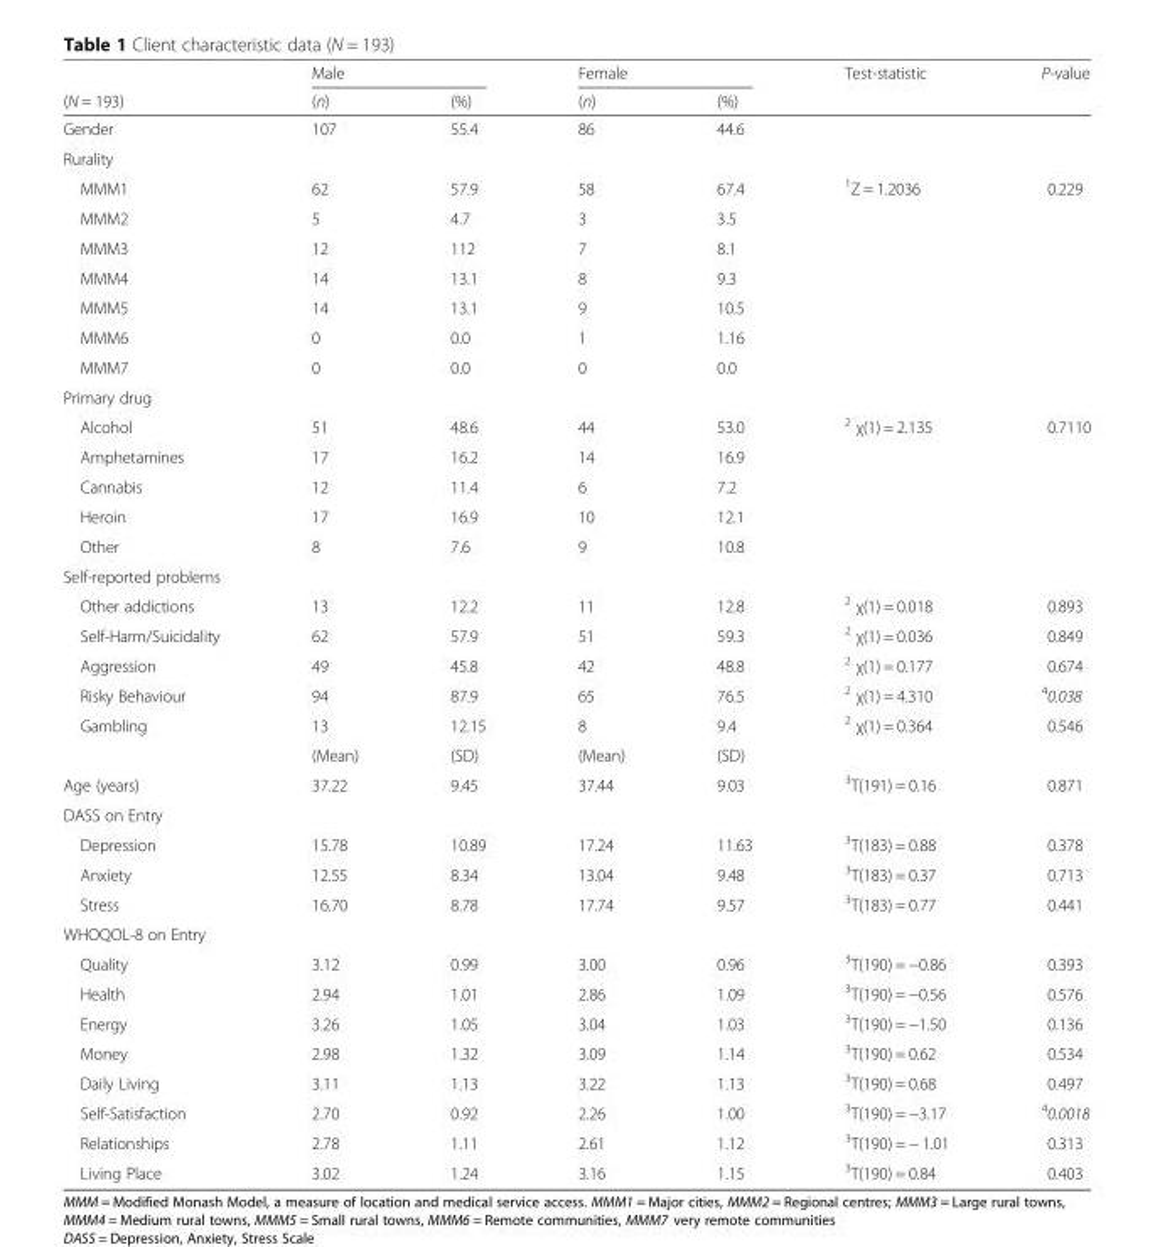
<table><thead><tr><td rowspan="2">(N = 193)</td><td colspan="2">Male</td><td colspan="2">Female</td><td rowspan="2">Test-statistic</td><td rowspan="2">P-value</td></tr><tr><td>(n)</td><td>(%)</td><td>(n)</td><td>(%)</td></tr></thead><tbody><tr><td>Gender</td><td>107</td><td>55.4</td><td>86</td><td>44.6</td><td></td><td></td></tr><tr><td colspan="7">Rurality</td></tr><tr><td>MMM1</td><td>62</td><td>57.9</td><td>58</td><td>67.4</td><td><sup>1</sup>Z = 1.2036</td><td>0.229</td></tr><tr><td>MMM2</td><td>5</td><td>4.7</td><td>3</td><td>3.5</td><td></td><td></td></tr><tr><td>MMM3</td><td>12</td><td>112</td><td>7</td><td>8.1</td><td></td><td></td></tr><tr><td>MMM4</td><td>14</td><td>13.1</td><td>8</td><td>9.3</td><td></td><td></td></tr><tr><td>MMM5</td><td>14</td><td>13.1</td><td>9</td><td>10.5</td><td></td><td></td></tr><tr><td>MMM6</td><td>0</td><td>0.0</td><td>1</td><td>1.16</td><td></td><td></td></tr><tr><td>MMM7</td><td>0</td><td>0.0</td><td>0</td><td>0.0</td><td></td><td></td></tr><tr><td colspan="7">Primary drug</td></tr><tr><td>Alcohol</td><td>51</td><td>48.6</td><td>44</td><td>53.0</td><td><sup>2</sup> χ(1) = 2.135</td><td>0.7110</td></tr><tr><td>Amphetamines</td><td>17</td><td>16.2</td><td>14</td><td>16.9</td><td></td><td></td></tr><tr><td>Cannabis</td><td>12</td><td>11.4</td><td>6</td><td>7.2</td><td></td><td></td></tr><tr><td>Heroin</td><td>17</td><td>16.9</td><td>10</td><td>12.1</td><td></td><td></td></tr><tr><td>Other</td><td>8</td><td>7.6</td><td>9</td><td>10.8</td><td></td><td></td></tr><tr><td colspan="7">Self-reported problems</td></tr><tr><td>Other addictions</td><td>13</td><td>12.2</td><td>11</td><td>12.8</td><td><sup>2</sup> χ(1) = 0.018</td><td>0.893</td></tr><tr><td>Self-Harm/Suicidality</td><td>62</td><td>57.9</td><td>51</td><td>59.3</td><td><sup>2</sup> χ(1) = 0.036</td><td>0.849</td></tr><tr><td>Aggression</td><td>49</td><td>45.8</td><td>42</td><td>48.8</td><td><sup>2</sup> χ(1) = 0.177</td><td>0.674</td></tr><tr><td>Risky Behaviour</td><td>94</td><td>87.9</td><td>65</td><td>76.5</td><td><sup>2</sup> χ(1) = 4.310</td><td><sup>4</sup>0.038</td></tr><tr><td rowspan="2">Gambling</td><td>13</td><td>12.15</td><td>8</td><td>9.4</td><td><sup>2</sup> χ(1) = 0.364</td><td>0.546</td></tr><tr><td>(Mean)</td><td>(SD)</td><td>(Mean)</td><td>(SD)</td><td></td><td></td></tr><tr><td>Age (years)</td><td>37.22</td><td>9.45</td><td>37.44</td><td>9.03</td><td><sup>3</sup>T(191) = 0.16</td><td>0.871</td></tr><tr><td colspan="7">DASS on Entry</td></tr><tr><td>Depression</td><td>15.78</td><td>10.89</td><td>17.24</td><td>11.63</td><td><sup>3</sup>T(183) = 0.88</td><td>0.378</td></tr><tr><td>Anxiety</td><td>12.55</td><td>8.34</td><td>13.04</td><td>9.48</td><td><sup>3</sup>T(183) = 0.37</td><td>0.713</td></tr><tr><td>Stress</td><td>16.70</td><td>8.78</td><td>17.74</td><td>9.57</td><td><sup>3</sup>T(183) = 0.77</td><td>0.441</td></tr><tr><td colspan="7">WHOQOL-8 on Entry</td></tr><tr><td>Quality</td><td>3.12</td><td>0.99</td><td>3.00</td><td>0.96</td><td><sup>3</sup>T(190) = −0.86</td><td>0.393</td></tr><tr><td>Health</td><td>2.94</td><td>1.01</td><td>2.86</td><td>1.09</td><td><sup>3</sup>T(190) = −0.56</td><td>0.576</td></tr><tr><td>Energy</td><td>3.26</td><td>1.05</td><td>3.04</td><td>1.03</td><td><sup>3</sup>T(190) = −1.50</td><td>0.136</td></tr><tr><td>Money</td><td>2.98</td><td>1.32</td><td>3.09</td><td>1.14</td><td><sup>3</sup>T(190) = 0.62</td><td>0.534</td></tr><tr><td>Daily Living</td><td>3.11</td><td>1.13</td><td>3.22</td><td>1.13</td><td><sup>3</sup>T(190) = 0.68</td><td>0.497</td></tr><tr><td>Self-Satisfaction</td><td>2.70</td><td>0.92</td><td>2.26</td><td>1.00</td><td><sup>3</sup>T(190) = −3.17</td><td><sup>4</sup>0.0018</td></tr><tr><td>Relationships</td><td>2.78</td><td>1.11</td><td>2.61</td><td>1.12</td><td><sup>3</sup>T(190) = − 1.01</td><td>0.313</td></tr><tr><td>Living Place</td><td>3.02</td><td>1.24</td><td>3.16</td><td>1.15</td><td><sup>3</sup>T(190) = 0.84</td><td>0.403</td></tr></tbody></table>